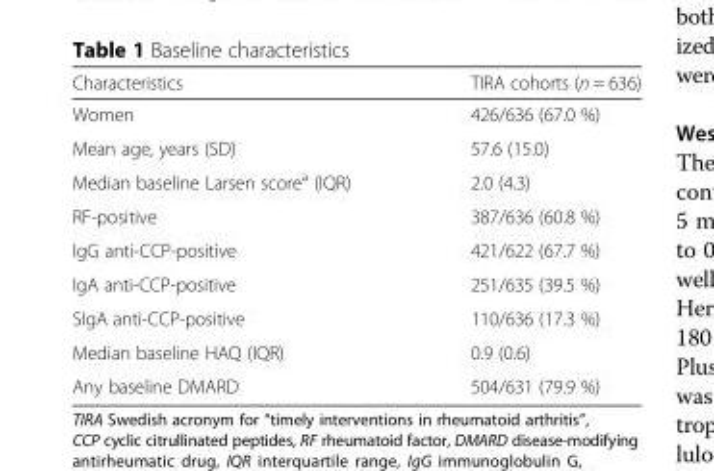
<table><thead><tr><td>Characteristics</td><td>TIRA cohorts (n = 636)</td></tr></thead><tbody><tr><td>Women</td><td>426/636 (67.0 %)</td></tr><tr><td>Mean age, years (SD)</td><td>57.6 (15.0)</td></tr><tr><td>Median baseline Larsen score<sup>a</sup> (IQR)</td><td>2.0 (4.3)</td></tr><tr><td>RF-positive</td><td>387/636 (60.8 %)</td></tr><tr><td>IgG anti-CCP-positive</td><td>421/622 (67.7 %)</td></tr><tr><td>IgA anti-CCP-positive</td><td>251/635 (39.5 %)</td></tr><tr><td>SIgA anti-CCP-positive</td><td>110/636 (17.3 %)</td></tr><tr><td>Median baseline HAQ (IQR)</td><td>0.9 (0.6)</td></tr><tr><td>Any baseline DMARD</td><td>504/631 (79.9 %)</td></tr></tbody></table>